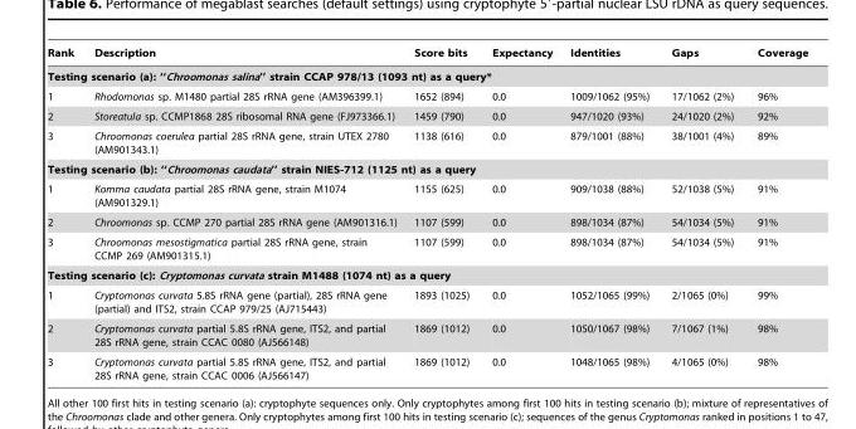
<table><thead><tr><td>Rank</td><td>Description</td><td>Score bits</td><td>Expectancy</td><td>Identities</td><td>Gaps</td><td>Coverage</td></tr></thead><tbody><tr><td colspan="7">Testing scenario (a): ‘‘Chroomonas salina’’ strain CCAP 978/13 (1093 nt) as a query*</td></tr><tr><td>1</td><td>Rhodomonas sp. M1480 partial 28S rRNA gene (AM396399.1)</td><td>1652 (894)</td><td>0.0</td><td>1009/1062 (95%)</td><td>17/1062 (2%)</td><td>96%</td></tr><tr><td>2</td><td>Storeatula sp. CCMP1868 28S ribosomal RNA gene (FJ973366.1)</td><td>1459 (790)</td><td>0.0</td><td>947/1020 (93%)</td><td>24/1020 (2%)</td><td>92%</td></tr><tr><td>3</td><td>Chroomonas coerulea partial 28S rRNA gene, strain UTEX 2780 (AM901343.1)</td><td>1138 (616)</td><td>0.0</td><td>879/1001 (88%)</td><td>38/1001 (4%)</td><td>89%</td></tr><tr><td colspan="7">Testing scenario (b): ‘‘Chroomonas caudata’’ strain NIES-712 (1125 nt) as a query</td></tr><tr><td>1</td><td>Komma caudata partial 28S rRNA gene, strain M1074 (AM901329.1)</td><td>1155 (625)</td><td>0.0</td><td>909/1038 (88%)</td><td>52/1038 (5%)</td><td>91%</td></tr><tr><td>2</td><td>Chroomonas sp. CCMP 270 partial 28S rRNA gene (AM901316.1)</td><td>1107 (599)</td><td>0.0</td><td>898/1034 (87%)</td><td>54/1034 (5%)</td><td>91%</td></tr><tr><td>3</td><td>Chroomonas mesostigmatica partial 28S rRNA gene, strain CCMP 269 (AM901315.1)</td><td>1107 (599)</td><td>0.0</td><td>898/1034 (87%)</td><td>54/1034 (5%)</td><td>91%</td></tr><tr><td colspan="7">Testing scenario (c): Cryptomonas curvata strain M1488 (1074 nt) as a query</td></tr><tr><td>1</td><td>Cryptomonas curvata 5.8S rRNA gene (partial), 28S rRNA gene (partial) and ITS2, strain CCAP 979/25 (AJ715443)</td><td>1893 (1025)</td><td>0.0</td><td>1052/1065 (99%)</td><td>2/1065 (0%)</td><td>99%</td></tr><tr><td>2</td><td>Cryptomonas curvata partial 5.8S rRNA gene, ITS2, and partial 28S rRNA gene, strain CCAC 0080 (AJ566148)</td><td>1869 (1012)</td><td>0.0</td><td>1050/1067 (98%)</td><td>7/1067 (1%)</td><td>98%</td></tr><tr><td>3</td><td>Cryptomonas curvata partial 5.8S rRNA gene, ITS2, and partial 28S rRNA gene, strain CCAC 0006 (AJ566147)</td><td>1869 (1012)</td><td>0.0</td><td>1048/1065 (98%)</td><td>4/1065 (0%)</td><td>98%</td></tr></tbody></table>